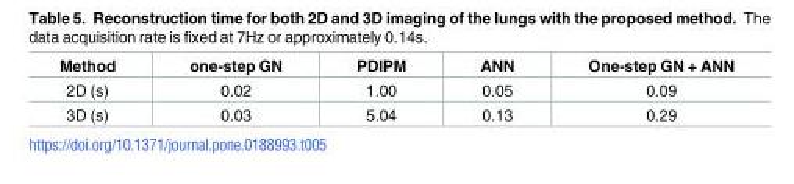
<table><thead><tr><td>Method</td><td>one-step GN</td><td>PDIPM</td><td>ANN</td><td>One-step GN + ANN</td></tr></thead><tbody><tr><td>2D (s)</td><td>0.02</td><td>1.00</td><td>0.05</td><td>0.09</td></tr><tr><td>3D (s)</td><td>0.03</td><td>5.04</td><td>0.13</td><td>0.29</td></tr></tbody></table>